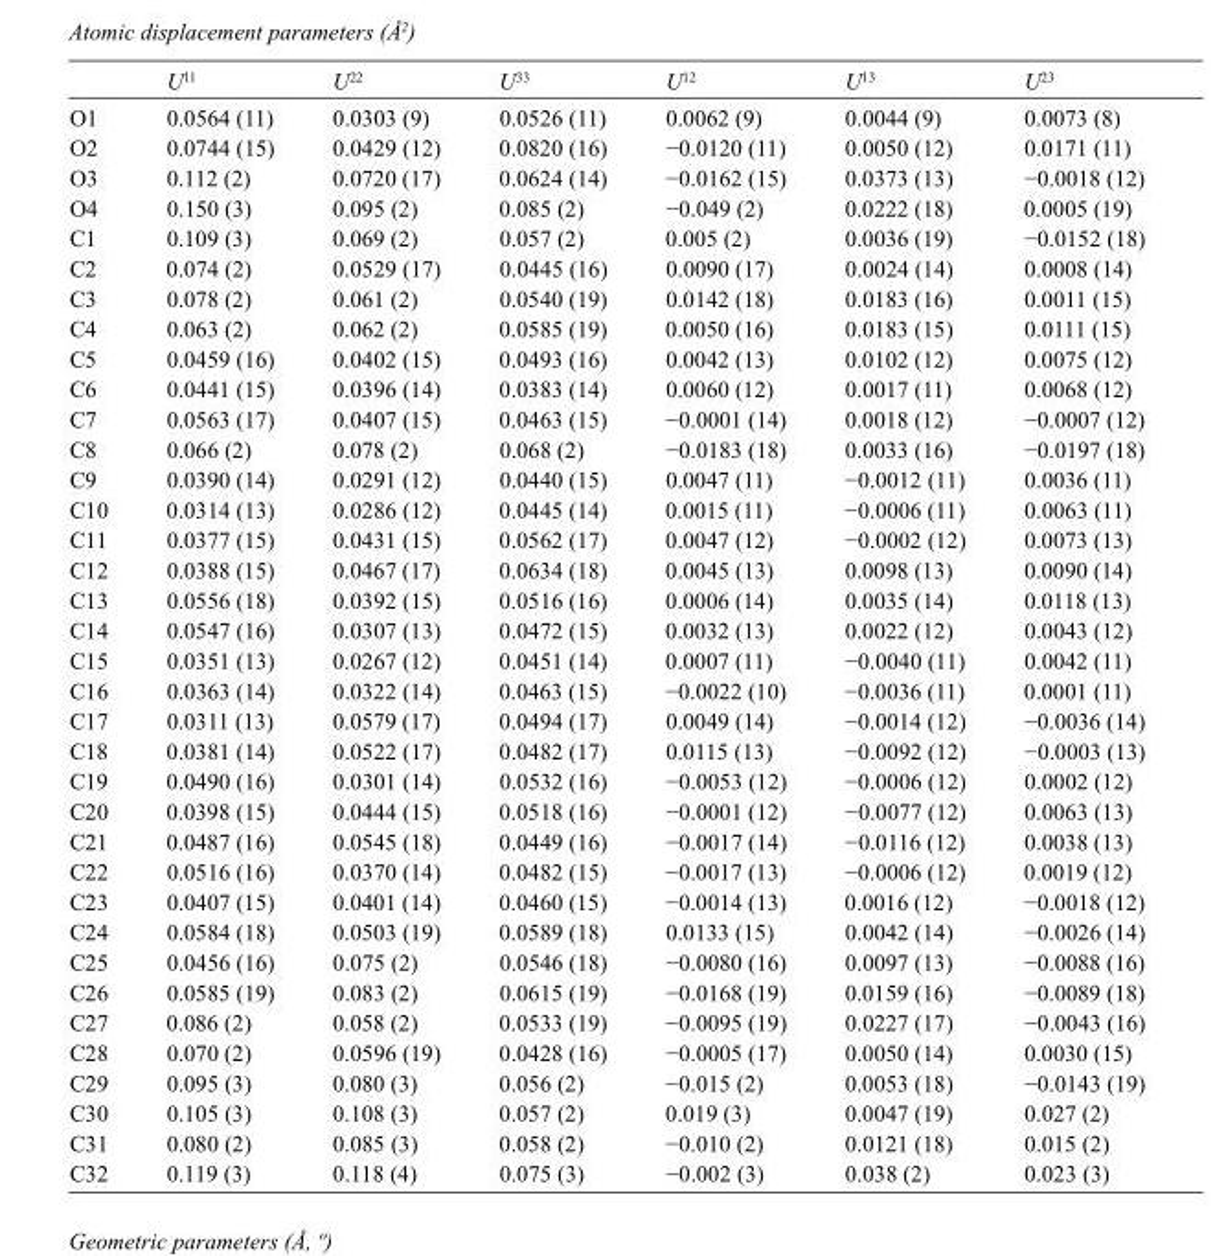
<table><thead><tr><td></td><td>U<sup>11</sup></td><td>U<sup>22</sup></td><td>U<sup>33</sup></td><td>U<sup>12</sup></td><td>U<sup>13</sup></td><td>U<sup>23</sup></td></tr></thead><tbody><tr><td>O1</td><td>0.0564 (11)</td><td>0.0303 (9)</td><td>0.0526 (11)</td><td>0.0062 (9)</td><td>0.0044 (9)</td><td>0.0073 (8)</td></tr><tr><td>O2</td><td>0.0744 (15)</td><td>0.0429 (12)</td><td>0.0820 (16)</td><td>−0.0120 (11)</td><td>0.0050 (12)</td><td>0.0171 (11)</td></tr><tr><td>O3</td><td>0.112 (2)</td><td>0.0720 (17)</td><td>0.0624 (14)</td><td>−0.0162 (15)</td><td>0.0373 (13)</td><td>−0.0018 (12)</td></tr><tr><td>O4</td><td>0.150 (3)</td><td>0.095 (2)</td><td>0.085 (2)</td><td>−0.049 (2)</td><td>0.0222 (18)</td><td>0.0005 (19)</td></tr><tr><td>C1</td><td>0.109 (3)</td><td>0.069 (2)</td><td>0.057 (2)</td><td>0.005 (2)</td><td>0.0036 (19)</td><td>−0.0152 (18)</td></tr><tr><td>C2</td><td>0.074 (2)</td><td>0.0529 (17)</td><td>0.0445 (16)</td><td>0.0090 (17)</td><td>0.0024 (14)</td><td>0.0008 (14)</td></tr><tr><td>C3</td><td>0.078 (2)</td><td>0.061 (2)</td><td>0.0540 (19)</td><td>0.0142 (18)</td><td>0.0183 (16)</td><td>0.0011 (15)</td></tr><tr><td>C4</td><td>0.063 (2)</td><td>0.062 (2)</td><td>0.0585 (19)</td><td>0.0050 (16)</td><td>0.0183 (15)</td><td>0.0111 (15)</td></tr><tr><td>C5</td><td>0.0459 (16)</td><td>0.0402 (15)</td><td>0.0493 (16)</td><td>0.0042 (13)</td><td>0.0102 (12)</td><td>0.0075 (12)</td></tr><tr><td>C6</td><td>0.0441 (15)</td><td>0.0396 (14)</td><td>0.0383 (14)</td><td>0.0060 (12)</td><td>0.0017 (11)</td><td>0.0068 (12)</td></tr><tr><td>C7</td><td>0.0563 (17)</td><td>0.0407 (15)</td><td>0.0463 (15)</td><td>−0.0001 (14)</td><td>0.0018 (12)</td><td>−0.0007 (12)</td></tr><tr><td>C8</td><td>0.066 (2)</td><td>0.078 (2)</td><td>0.068 (2)</td><td>−0.0183 (18)</td><td>0.0033 (16)</td><td>−0.0197 (18)</td></tr><tr><td>C9</td><td>0.0390 (14)</td><td>0.0291 (12)</td><td>0.0440 (15)</td><td>0.0047 (11)</td><td>−0.0012 (11)</td><td>0.0036 (11)</td></tr><tr><td>C10</td><td>0.0314 (13)</td><td>0.0286 (12)</td><td>0.0445 (14)</td><td>0.0015 (11)</td><td>−0.0006 (11)</td><td>0.0063 (11)</td></tr><tr><td>C11</td><td>0.0377 (15)</td><td>0.0431 (15)</td><td>0.0562 (17)</td><td>0.0047 (12)</td><td>−0.0002 (12)</td><td>0.0073 (13)</td></tr><tr><td>C12</td><td>0.0388 (15)</td><td>0.0467 (17)</td><td>0.0634 (18)</td><td>0.0045 (13)</td><td>0.0098 (13)</td><td>0.0090 (14)</td></tr><tr><td>C13</td><td>0.0556 (18)</td><td>0.0392 (15)</td><td>0.0516 (16)</td><td>0.0006 (14)</td><td>0.0035 (14)</td><td>0.0118 (13)</td></tr><tr><td>C14</td><td>0.0547 (16)</td><td>0.0307 (13)</td><td>0.0472 (15)</td><td>0.0032 (13)</td><td>0.0022 (12)</td><td>0.0043 (12)</td></tr><tr><td>C15</td><td>0.0351 (13)</td><td>0.0267 (12)</td><td>0.0451 (14)</td><td>0.0007 (11)</td><td>−0.0040 (11)</td><td>0.0042 (11)</td></tr><tr><td>C16</td><td>0.0363 (14)</td><td>0.0322 (14)</td><td>0.0463 (15)</td><td>−0.0022 (10)</td><td>−0.0036 (11)</td><td>0.0001 (11)</td></tr><tr><td>C17</td><td>0.0311 (13)</td><td>0.0579 (17)</td><td>0.0494 (17)</td><td>0.0049 (14)</td><td>−0.0014 (12)</td><td>−0.0036 (14)</td></tr><tr><td>C18</td><td>0.0381 (14)</td><td>0.0522 (17)</td><td>0.0482 (17)</td><td>0.0115 (13)</td><td>−0.0092 (12)</td><td>−0.0003 (13)</td></tr><tr><td>C19</td><td>0.0490 (16)</td><td>0.0301 (14)</td><td>0.0532 (16)</td><td>−0.0053 (12)</td><td>−0.0006 (12)</td><td>0.0002 (12)</td></tr><tr><td>C20</td><td>0.0398 (15)</td><td>0.0444 (15)</td><td>0.0518 (16)</td><td>−0.0001 (12)</td><td>−0.0077 (12)</td><td>0.0063 (13)</td></tr><tr><td>C21</td><td>0.0487 (16)</td><td>0.0545 (18)</td><td>0.0449 (16)</td><td>−0.0017 (14)</td><td>−0.0116 (12)</td><td>0.0038 (13)</td></tr><tr><td>C22</td><td>0.0516 (16)</td><td>0.0370 (14)</td><td>0.0482 (15)</td><td>−0.0017 (13)</td><td>−0.0006 (12)</td><td>0.0019 (12)</td></tr><tr><td>C23</td><td>0.0407 (15)</td><td>0.0401 (14)</td><td>0.0460 (15)</td><td>−0.0014 (13)</td><td>0.0016 (12)</td><td>−0.0018 (12)</td></tr><tr><td>C24</td><td>0.0584 (18)</td><td>0.0503 (19)</td><td>0.0589 (18)</td><td>0.0133 (15)</td><td>0.0042 (14)</td><td>−0.0026 (14)</td></tr><tr><td>C25</td><td>0.0456 (16)</td><td>0.075 (2)</td><td>0.0546 (18)</td><td>−0.0080 (16)</td><td>0.0097 (13)</td><td>−0.0088 (16)</td></tr><tr><td>C26</td><td>0.0585 (19)</td><td>0.083 (2)</td><td>0.0615 (19)</td><td>−0.0168 (19)</td><td>0.0159 (16)</td><td>−0.0089 (18)</td></tr><tr><td>C27</td><td>0.086 (2)</td><td>0.058 (2)</td><td>0.0533 (19)</td><td>−0.0095 (19)</td><td>0.0227 (17)</td><td>−0.0043 (16)</td></tr><tr><td>C28</td><td>0.070 (2)</td><td>0.0596 (19)</td><td>0.0428 (16)</td><td>−0.0005 (17)</td><td>0.0050 (14)</td><td>0.0030 (15)</td></tr><tr><td>C29</td><td>0.095 (3)</td><td>0.080 (3)</td><td>0.056 (2)</td><td>−0.015 (2)</td><td>0.0053 (18)</td><td>−0.0143 (19)</td></tr><tr><td>C30</td><td>0.105 (3)</td><td>0.108 (3)</td><td>0.057 (2)</td><td>0.019 (3)</td><td>0.0047 (19)</td><td>0.027 (2)</td></tr><tr><td>C31</td><td>0.080 (2)</td><td>0.085 (3)</td><td>0.058 (2)</td><td>−0.010 (2)</td><td>0.0121 (18)</td><td>0.015 (2)</td></tr><tr><td>C32</td><td>0.119 (3)</td><td>0.118 (4)</td><td>0.075 (3)</td><td>−0.002 (3)</td><td>0.038 (2)</td><td>0.023 (3)</td></tr></tbody></table>